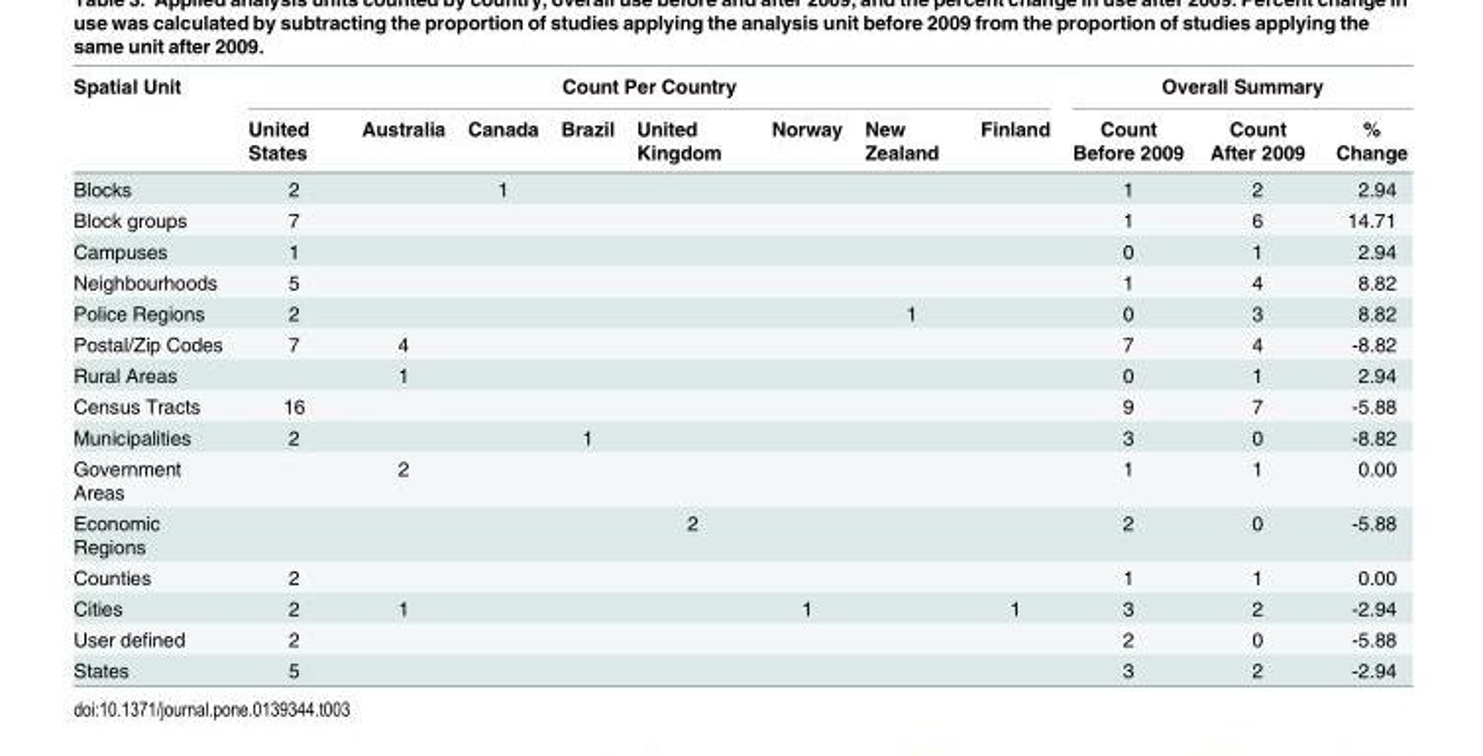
<table><thead><tr><td rowspan="2">Spatial Unit</td><td colspan="8">Count Per Country</td><td colspan="3">Overall Summary</td></tr><tr><td>United States</td><td>Australia</td><td>Canada</td><td>Brazil</td><td>United Kingdom</td><td>Norway</td><td>New Zealand</td><td>Finland</td><td>Count Before 2009</td><td>Count After 2009</td><td>% Change</td></tr></thead><tbody><tr><td>Blocks</td><td>2</td><td></td><td>1</td><td></td><td></td><td></td><td></td><td></td><td>1</td><td>2</td><td>2.94</td></tr><tr><td>Block groups</td><td>7</td><td></td><td></td><td></td><td></td><td></td><td></td><td></td><td>1</td><td>6</td><td>14.71</td></tr><tr><td>Campuses</td><td>1</td><td></td><td></td><td></td><td></td><td></td><td></td><td></td><td>0</td><td>1</td><td>2.94</td></tr><tr><td>Neighbourhoods</td><td>5</td><td></td><td></td><td></td><td></td><td></td><td></td><td></td><td>1</td><td>4</td><td>8.82</td></tr><tr><td>Police Regions</td><td>2</td><td></td><td></td><td></td><td></td><td></td><td>1</td><td></td><td>0</td><td>3</td><td>8.82</td></tr><tr><td>Postal/Zip Codes</td><td>7</td><td>4</td><td></td><td></td><td></td><td></td><td></td><td></td><td>7</td><td>4</td><td>-8.82</td></tr><tr><td>Rural Areas</td><td></td><td>1</td><td></td><td></td><td></td><td></td><td></td><td></td><td>0</td><td>1</td><td>2.94</td></tr><tr><td>Census Tracts</td><td>16</td><td></td><td></td><td></td><td></td><td></td><td></td><td></td><td>9</td><td>7</td><td>-5.88</td></tr><tr><td>Municipalities</td><td>2</td><td></td><td></td><td>1</td><td></td><td></td><td></td><td></td><td>3</td><td>0</td><td>-8.82</td></tr><tr><td>Government Areas</td><td></td><td>2</td><td></td><td></td><td></td><td></td><td></td><td></td><td>1</td><td>1</td><td>0.00</td></tr><tr><td>Economic Regions</td><td></td><td></td><td></td><td></td><td>2</td><td></td><td></td><td></td><td>2</td><td>0</td><td>-5.88</td></tr><tr><td>Counties</td><td>2</td><td></td><td></td><td></td><td></td><td></td><td></td><td></td><td>1</td><td>1</td><td>0.00</td></tr><tr><td>Cities</td><td>2</td><td>1</td><td></td><td></td><td></td><td>1</td><td></td><td>1</td><td>3</td><td>2</td><td>-2.94</td></tr><tr><td>User defined</td><td>2</td><td></td><td></td><td></td><td></td><td></td><td></td><td></td><td>2</td><td>0</td><td>-5.88</td></tr><tr><td>States</td><td>5</td><td></td><td></td><td></td><td></td><td></td><td></td><td></td><td>3</td><td>2</td><td>-2.94</td></tr></tbody></table>